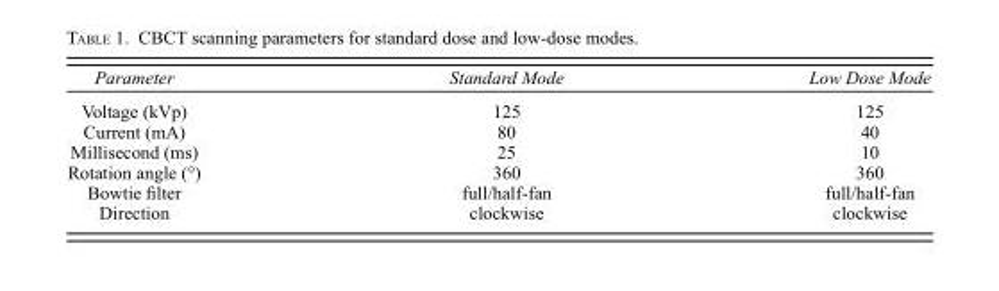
<table><thead><tr><td>Parameter</td><td>Standard Mode</td><td>Low Dose Mode</td></tr></thead><tbody><tr><td>Voltage (kVp)</td><td>125</td><td>125</td></tr><tr><td>Current (mA)</td><td>80</td><td>40</td></tr><tr><td>Millisecond (ms)</td><td>25</td><td>10</td></tr><tr><td>Rotation angle (°)</td><td>360</td><td>360</td></tr><tr><td>Bowtie filter</td><td>full/half-fan</td><td>full/half-fan</td></tr><tr><td>Direction</td><td>clockwise</td><td>clockwise</td></tr></tbody></table>